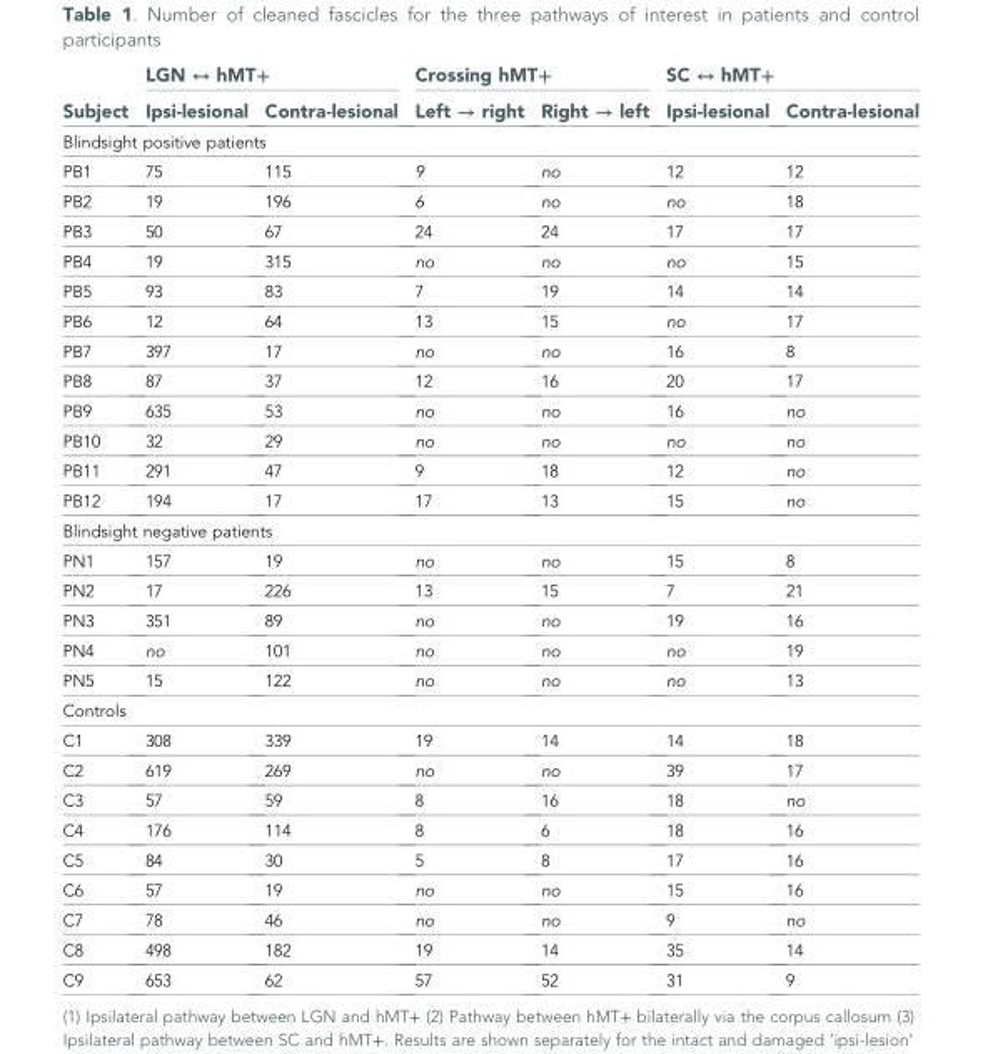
<table><thead><tr><td rowspan="2">Subject</td><td colspan="2">LGN ↔ hMT+</td><td colspan="2">Crossing hMT+</td><td colspan="2">SC ↔ hMT+</td></tr><tr><td>Ipsi-lesional</td><td>Contra-lesional</td><td>Left → right</td><td>Right → left</td><td>Ipsi-lesional</td><td>Contra-lesional</td></tr></thead><tbody><tr><td colspan="7">Blindsight positive patients</td></tr><tr><td>PB1</td><td>75</td><td>115</td><td>9</td><td>no</td><td>12</td><td>12</td></tr><tr><td>PB2</td><td>19</td><td>196</td><td>6</td><td>no</td><td>no</td><td>18</td></tr><tr><td>PB3</td><td>50</td><td>67</td><td>24</td><td>24</td><td>17</td><td>17</td></tr><tr><td>PB4</td><td>19</td><td>315</td><td>no</td><td>no</td><td>no</td><td>15</td></tr><tr><td>PB5</td><td>93</td><td>83</td><td>7</td><td>19</td><td>14</td><td>14</td></tr><tr><td>PB6</td><td>12</td><td>64</td><td>13</td><td>15</td><td>no</td><td>17</td></tr><tr><td>PB7</td><td>397</td><td>17</td><td>no</td><td>no</td><td>16</td><td>8</td></tr><tr><td>PB8</td><td>87</td><td>37</td><td>12</td><td>16</td><td>20</td><td>17</td></tr><tr><td>PB9</td><td>635</td><td>53</td><td>no</td><td>no</td><td>16</td><td>no</td></tr><tr><td>PB10</td><td>32</td><td>29</td><td>no</td><td>no</td><td>no</td><td>no</td></tr><tr><td>PB11</td><td>291</td><td>47</td><td>9</td><td>18</td><td>12</td><td>no</td></tr><tr><td>PB12</td><td>194</td><td>17</td><td>17</td><td>13</td><td>15</td><td>no</td></tr><tr><td colspan="7">Blindsight negative patients</td></tr><tr><td>PN1</td><td>157</td><td>19</td><td>no</td><td>no</td><td>15</td><td>8</td></tr><tr><td>PN2</td><td>17</td><td>226</td><td>13</td><td>15</td><td>7</td><td>21</td></tr><tr><td>PN3</td><td>351</td><td>89</td><td>no</td><td>no</td><td>19</td><td>16</td></tr><tr><td>PN4</td><td>no</td><td>101</td><td>no</td><td>no</td><td>no</td><td>19</td></tr><tr><td>PN5</td><td>15</td><td>122</td><td>no</td><td>no</td><td>no</td><td>13</td></tr><tr><td colspan="7">Controls</td></tr><tr><td>C1</td><td>308</td><td>339</td><td>19</td><td>14</td><td>14</td><td>18</td></tr><tr><td>C2</td><td>619</td><td>269</td><td>no</td><td>no</td><td>39</td><td>17</td></tr><tr><td>C3</td><td>57</td><td>59</td><td>8</td><td>16</td><td>18</td><td>no</td></tr><tr><td>C4</td><td>176</td><td>114</td><td>8</td><td>6</td><td>18</td><td>16</td></tr><tr><td>C5</td><td>84</td><td>30</td><td>5</td><td>8</td><td>17</td><td>16</td></tr><tr><td>C6</td><td>57</td><td>19</td><td>no</td><td>no</td><td>15</td><td>16</td></tr><tr><td>C7</td><td>78</td><td>46</td><td>no</td><td>no</td><td>9</td><td>no</td></tr><tr><td>C8</td><td>498</td><td>182</td><td>19</td><td>14</td><td>35</td><td>14</td></tr><tr><td>C9</td><td>653</td><td>62</td><td>57</td><td>52</td><td>31</td><td>9</td></tr></tbody></table>